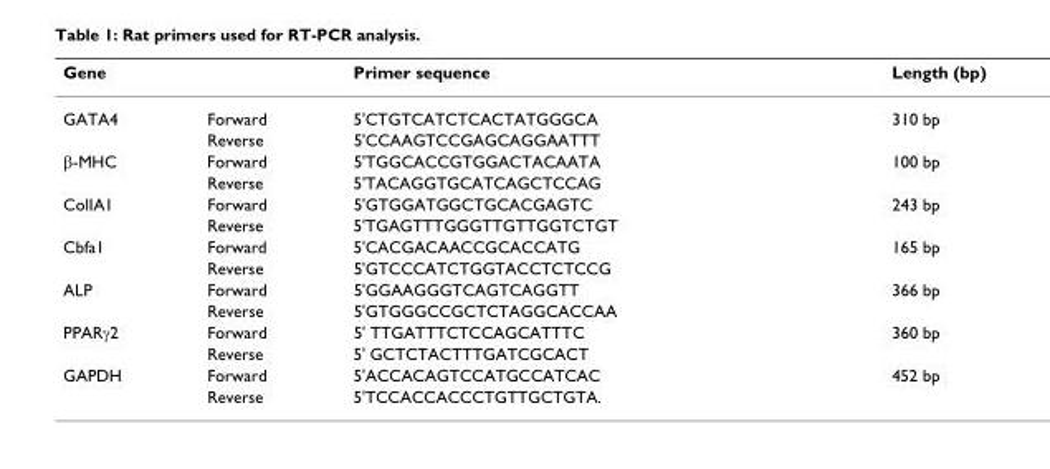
<table><thead><tr><td>Gene</td><td></td><td>Primer sequence</td><td>Length (bp)</td></tr></thead><tbody><tr><td rowspan="2">GATA4</td><td>Forward</td><td>5&#x27;CTGTCATCTCACTATGGGCA</td><td>310 bp</td></tr><tr><td>Reverse</td><td>5&#x27;CCAAGTCCGAGCAGGAATTT</td><td></td></tr><tr><td rowspan="2">β-MHC</td><td>Forward</td><td>5&#x27;TGGCACCGTGGACTACAATA</td><td>100 bp</td></tr><tr><td>Reverse</td><td>5&#x27;TACAGGTGCATCAGCTCCAG</td><td></td></tr><tr><td rowspan="2">ColIA1</td><td>Forward</td><td>5&#x27;GTGGATGGCTGCACGAGTC</td><td>243 bp</td></tr><tr><td>Reverse</td><td>5&#x27;TGAGTTTGGGTTGTTGGTCTGT</td><td></td></tr><tr><td rowspan="2">Cbfa1</td><td>Forward</td><td>5&#x27;CACGACAACCGCACCATG</td><td>165 bp</td></tr><tr><td>Reverse</td><td>5&#x27;GTCCCATCTGGTACCTCTCCG</td><td></td></tr><tr><td rowspan="2">ALP</td><td>Forward</td><td>5&#x27;GGAAGGGTCAGTCAGGTT</td><td>366 bp</td></tr><tr><td>Reverse</td><td>5&#x27;GTGGGCCGCTCTAGGCACCAA</td><td></td></tr><tr><td rowspan="2">PPARγ2</td><td>Forward</td><td>5&#x27; TTGATTTCTCCAGCATTTC</td><td>360 bp</td></tr><tr><td>Reverse</td><td>5&#x27; GCTCTACTTTGATCGCACT</td><td></td></tr><tr><td rowspan="2">GAPDH</td><td>Forward</td><td>5&#x27;ACCACAGTCCATGCCATCAC</td><td>452 bp</td></tr><tr><td>Reverse</td><td>5&#x27;TCCACCACCCTGTTGCTGTA.</td><td></td></tr></tbody></table>